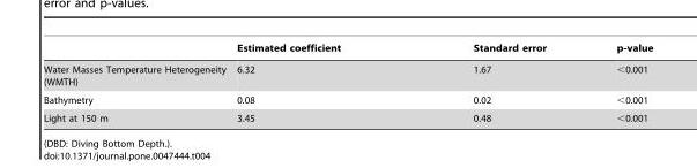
<table><thead><tr><td></td><td>Estimated coefficient</td><td>Standard error</td><td>p-value</td></tr></thead><tbody><tr><td>Water Masses Temperature Heterogeneity (WMTH)</td><td>6.32</td><td>1.67</td><td>&lt;0.001</td></tr><tr><td>Bathymetry</td><td>0.08</td><td>0.02</td><td>&lt;0.001</td></tr><tr><td>Light at 150 m</td><td>3.45</td><td>0.48</td><td>&lt;0.001</td></tr></tbody></table>